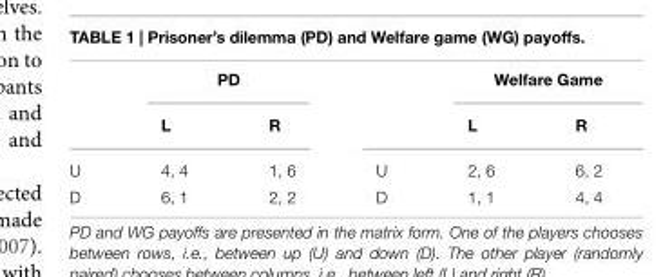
<table><thead><tr><td rowspan="2"></td><td colspan="2">PD</td><td rowspan="2"></td><td colspan="2">Welfare Game</td></tr><tr><td>L</td><td>R</td><td>L</td><td>R</td></tr></thead><tbody><tr><td>U</td><td>4, 4</td><td>1, 6</td><td>U</td><td>2, 6</td><td>6, 2</td></tr><tr><td>D</td><td>6, 1</td><td>2, 2</td><td>D</td><td>1, 1</td><td>4, 4</td></tr></tbody></table>